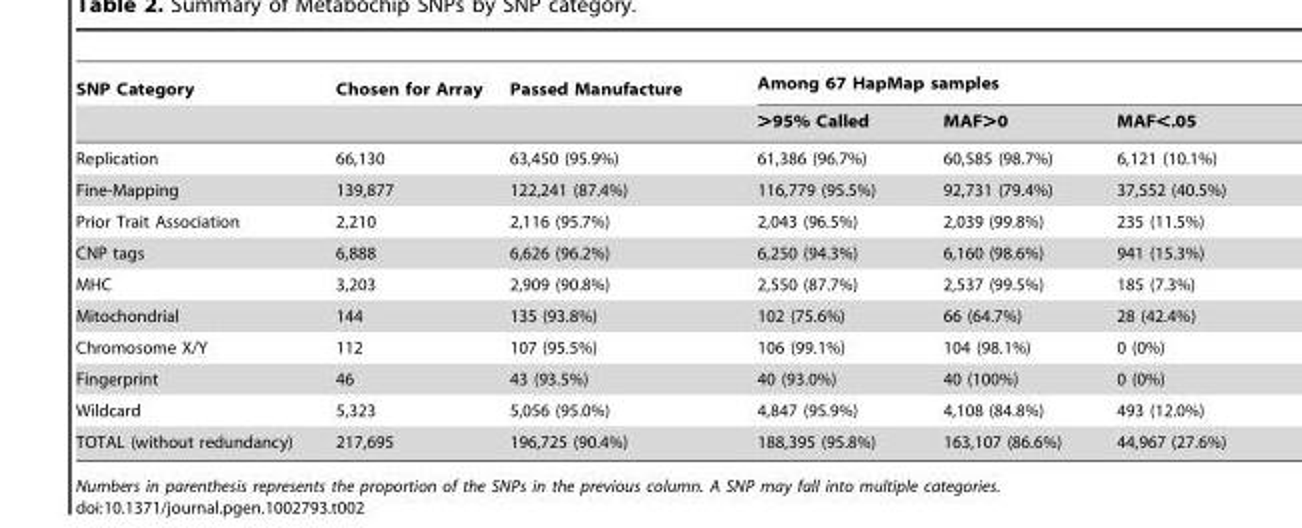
<table><thead><tr><td rowspan="2">SNP Category</td><td rowspan="2">Chosen for Array</td><td rowspan="2">Passed Manufacture</td><td colspan="3">Among 67 HapMap samples</td></tr><tr><td>&gt;95% Called</td><td>MAF&gt;0</td><td>MAF&lt;.05</td></tr></thead><tbody><tr><td>Replication</td><td>66,130</td><td>63,450 (95.9%)</td><td>61,386 (96.7%)</td><td>60,585 (98.7%)</td><td>6,121 (10.1%)</td></tr><tr><td>Fine-Mapping</td><td>139,877</td><td>122,241 (87.4%)</td><td>116,779 (95.5%)</td><td>92,731 (79.4%)</td><td>37,552 (40.5%)</td></tr><tr><td>Prior Trait Association</td><td>2,210</td><td>2,116 (95.7%)</td><td>2,043 (96.5%)</td><td>2,039 (99.8%)</td><td>235 (11.5%)</td></tr><tr><td>CNP tags</td><td>6,888</td><td>6,626 (96.2%)</td><td>6,250 (94.3%)</td><td>6,160 (98.6%)</td><td>941 (15.3%)</td></tr><tr><td>MHC</td><td>3,203</td><td>2,909 (90.8%)</td><td>2,550 (87.7%)</td><td>2,537 (99.5%)</td><td>185 (7.3%)</td></tr><tr><td>Mitochondrial</td><td>144</td><td>135 (93.8%)</td><td>102 (75.6%)</td><td>66 (64.7%)</td><td>28 (42.4%)</td></tr><tr><td>Chromosome X/Y</td><td>112</td><td>107 (95.5%)</td><td>106 (99.1%)</td><td>104 (98.1%)</td><td>0 (0%)</td></tr><tr><td>Fingerprint</td><td>46</td><td>43 (93.5%)</td><td>40 (93.0%)</td><td>40 (100%)</td><td>0 (0%)</td></tr><tr><td>Wildcard</td><td>5,323</td><td>5,056 (95.0%)</td><td>4,847 (95.9%)</td><td>4,108 (84.8%)</td><td>493 (12.0%)</td></tr><tr><td>TOTAL (without redundancy)</td><td>217,695</td><td>196,725 (90.4%)</td><td>188,395 (95.8%)</td><td>163,107 (86.6%)</td><td>44,967 (27.6%)</td></tr></tbody></table>